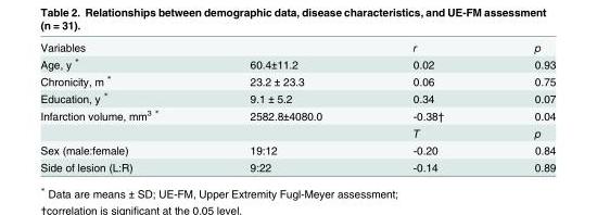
<table><tbody><tr><td>Variables</td><td></td><td>r</td><td>p</td></tr><tr><td>Age, y *</td><td>60.4±11.2</td><td>0.02</td><td>0.93</td></tr><tr><td>Chronicity, m *</td><td>23.2 ± 23.3</td><td>0.06</td><td>0.75</td></tr><tr><td>Education, y *</td><td>9.1 ± 5.2</td><td>0.34</td><td>0.07</td></tr><tr><td rowspan="2">Infarction volume, mm<sup>3 *</sup></td><td>2582.8±4080.0</td><td>-0.38†</td><td>0.04</td></tr><tr><td></td><td>T</td><td>p</td></tr><tr><td>Sex (male:female)</td><td>19:12</td><td>-0.20</td><td>0.84</td></tr><tr><td>Side of lesion (L:R)</td><td>9:22</td><td>-0.14</td><td>0.89</td></tr></tbody></table>